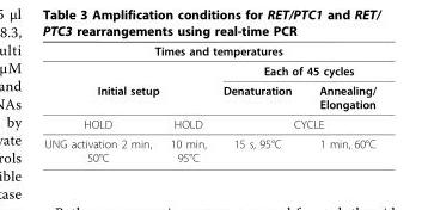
<table><thead><tr><td colspan="4">Times and temperatures</td></tr><tr><td></td><td></td><td colspan="2">Each of 45 cycles</td></tr><tr><td colspan="2">Initial setup</td><td>Denaturation</td><td>Annealing/ Elongation</td></tr></thead><tbody><tr><td>HOLD</td><td>HOLD</td><td colspan="2">CYCLE</td></tr><tr><td>UNG activation 2 min, 50°C</td><td>10 min, 95°C</td><td>15 s, 95°C</td><td>1 min, 60°C</td></tr></tbody></table>